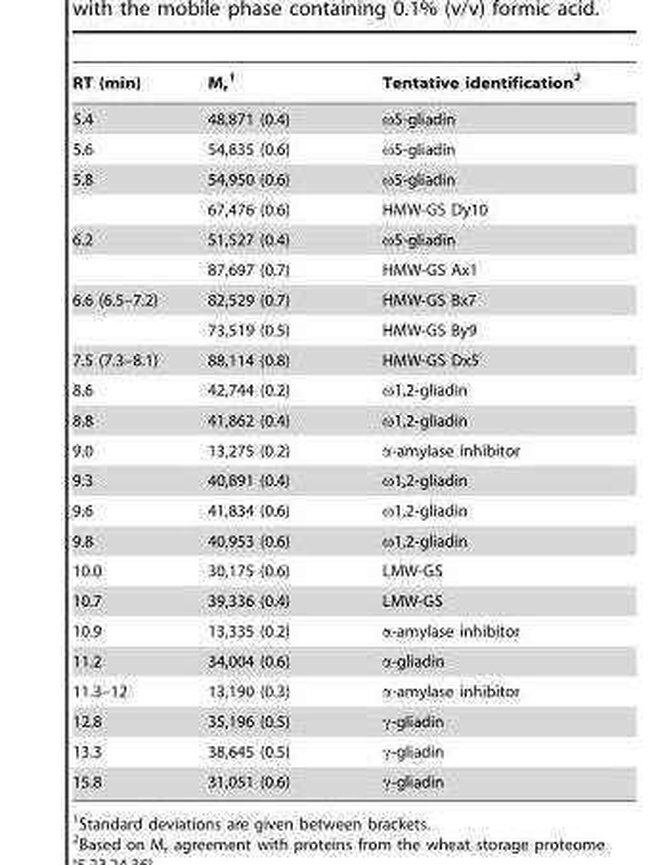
<table><thead><tr><td>RT (min)</td><td>M<sub>r</sub> 1</td><td>Tentative identification<sup>2</sup></td></tr></thead><tbody><tr><td>5.4</td><td>48,871 (0.4)</td><td>ω5-gliadin</td></tr><tr><td>5.6</td><td>54,835 (0.6)</td><td>ω5-gliadin</td></tr><tr><td rowspan="2">5.8</td><td>54,950 (0.6)</td><td>ω5-gliadin</td></tr><tr><td>67,476 (0.6)</td><td>HMW-GS Dy10</td></tr><tr><td rowspan="2">6.2</td><td>51,527 (0.4)</td><td>ω5-gliadin</td></tr><tr><td>87,697 (0.7)</td><td>HMW-GS Ax1</td></tr><tr><td rowspan="2">6.6 (6.5–7.2)</td><td>82,529 (0.7)</td><td>HMW-GS Bx7</td></tr><tr><td>73,519 (0.5)</td><td>HMW-GS By9</td></tr><tr><td>7.5 (7.3–8.1)</td><td>88,114 (0.8)</td><td>HMW-GS Dx5</td></tr><tr><td>8.6</td><td>42,744 (0.2)</td><td>ω1,2-gliadin</td></tr><tr><td>8.8</td><td>41,862 (0.4)</td><td>ω1,2-gliadin</td></tr><tr><td>9.0</td><td>13,275 (0.2)</td><td>α-amylase inhibitor</td></tr><tr><td>9.3</td><td>40,891 (0.4)</td><td>ω1,2-gliadin</td></tr><tr><td>9.6</td><td>41,834 (0.6)</td><td>ω1,2-gliadin</td></tr><tr><td>9.8</td><td>40,953 (0.6)</td><td>ω1,2-gliadin</td></tr><tr><td>10.0</td><td>30,175 (0.6)</td><td>LMW-GS</td></tr><tr><td>10.7</td><td>39,336 (0.4)</td><td>LMW-GS</td></tr><tr><td>10.9</td><td>13,335 (0.2)</td><td>α-amylase inhibitor</td></tr><tr><td>11.2</td><td>34,004 (0.6)</td><td>α-gliadin</td></tr><tr><td>11.3–12</td><td>13,190 (0.3)</td><td>α-amylase inhibitor</td></tr><tr><td>12.8</td><td>35,196 (0.5)</td><td>γ-gliadin</td></tr><tr><td>13.3</td><td>38,645 (0.5)</td><td>γ-gliadin</td></tr><tr><td>15.8</td><td>31,051 (0.6)</td><td>γ-gliadin</td></tr></tbody></table>